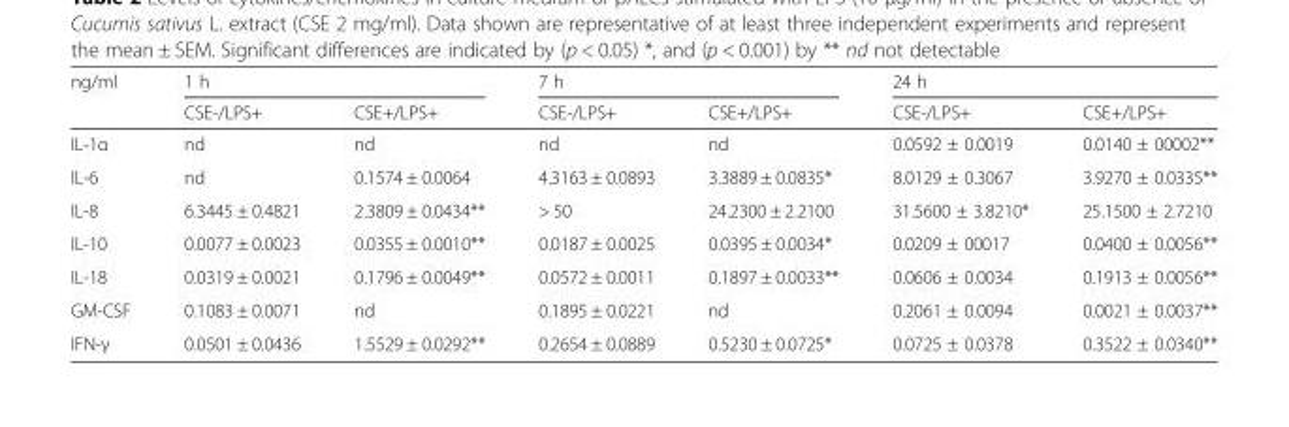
<table><thead><tr><td rowspan="2">ng/ml</td><td colspan="2">1 h</td><td colspan="2">7 h</td><td colspan="2">24 h</td></tr><tr><td>CSE-/LPS+</td><td>CSE+/LPS+</td><td>CSE-/LPS+</td><td>CSE+/LPS+</td><td>CSE-/LPS+</td><td>CSE+/LPS+</td></tr></thead><tbody><tr><td>IL-1α</td><td>nd</td><td>nd</td><td>nd</td><td>nd</td><td>0.0592 ± 0.0019</td><td>0.0140 ± 00002**</td></tr><tr><td>IL-6</td><td>nd</td><td>0.1574 ± 0.0064</td><td>4.3163 ± 0.0893</td><td>3.3889 ± 0.0835*</td><td>8.0129 ± 0.3067</td><td>3.9270 ± 0.0335**</td></tr><tr><td>IL-8</td><td>6.3445 ± 0.4821</td><td>2.3809 ± 0.0434**</td><td>&gt; 50</td><td>24.2300 ± 2.2100</td><td>31.5600 ± 3.8210*</td><td>25.1500 ± 2.7210</td></tr><tr><td>IL-10</td><td>0.0077 ± 0.0023</td><td>0.0355 ± 0.0010**</td><td>0.0187 ± 0.0025</td><td>0.0395 ± 0.0034*</td><td>0.0209 ± 00017</td><td>0.0400 ± 0.0056**</td></tr><tr><td>IL-18</td><td>0.0319 ± 0.0021</td><td>0.1796 ± 0.0049**</td><td>0.0572 ± 0.0011</td><td>0.1897 ± 0.0033**</td><td>0.0606 ± 0.0034</td><td>0.1913 ± 0.0056**</td></tr><tr><td>GM-CSF</td><td>0.1083 ± 0.0071</td><td>nd</td><td>0.1895 ± 0.0221</td><td>nd</td><td>0.2061 ± 0.0094</td><td>0.0021 ± 0.0037**</td></tr><tr><td>IFN-γ</td><td>0.0501 ± 0.0436</td><td>1.5529 ± 0.0292**</td><td>0.2654 ± 0.0889</td><td>0.5230 ± 0.0725*</td><td>0.0725 ± 0.0378</td><td>0.3522 ± 0.0340**</td></tr></tbody></table>